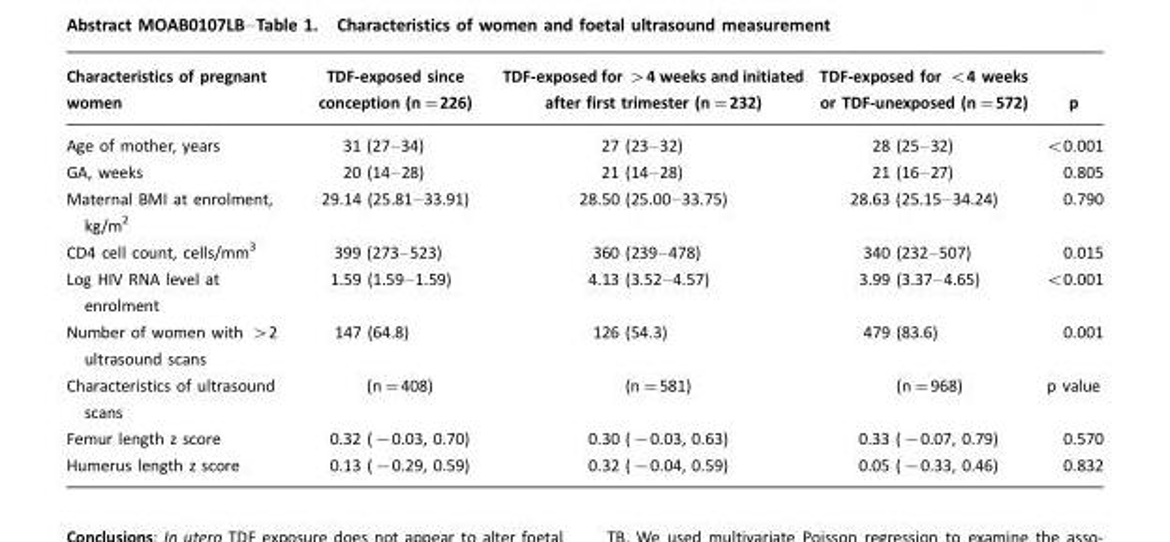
<table><thead><tr><td>Characteristics of pregnant women</td><td>TDF-exposed since conception (n=226)</td><td>TDF-exposed for &gt;4 weeks and initiated after first trimester (n=232)</td><td>TDF-exposed for &lt;4 weeks or TDF-unexposed (n=572)</td><td>p</td></tr></thead><tbody><tr><td>Age of mother, years</td><td>31 (27–34)</td><td>27 (23–32)</td><td>28 (25–32)</td><td>&lt;0.001</td></tr><tr><td>GA, weeks</td><td>20 (14–28)</td><td>21 (14–28)</td><td>21 (16–27)</td><td>0.805</td></tr><tr><td>Maternal BMI at enrolment, kg/m2</td><td>29.14 (25.81–33.91)</td><td>28.50 (25.00–33.75)</td><td>28.63 (25.15–34.24)</td><td>0.790</td></tr><tr><td>CD4 cell count, cells/mm3</td><td>399 (273–523)</td><td>360 (239–478)</td><td>340 (232–507)</td><td>0.015</td></tr><tr><td>Log HIV RNA level at enrolment</td><td>1.59 (1.59–1.59)</td><td>4.13 (3.52–4.57)</td><td>3.99 (3.37–4.65)</td><td>&lt;0.001</td></tr><tr><td>Number of women with &gt;2 ultrasound scans</td><td>147 (64.8)</td><td>126 (54.3)</td><td>479 (83.6)</td><td>0.001</td></tr><tr><td>Characteristics of ultrasound scans</td><td>(n=408)</td><td>(n=581)</td><td>(n=968)</td><td>p value</td></tr><tr><td>Femur length z score</td><td>0.32 (−0.03, 0.70)</td><td>0.30 (−0.03, 0.63)</td><td>0.33 (−0.07, 0.79)</td><td>0.570</td></tr><tr><td>Humerus length z score</td><td>0.13 (−0.29, 0.59)</td><td>0.32 (−0.04, 0.59)</td><td>0.05 (−0.33, 0.46)</td><td>0.832</td></tr></tbody></table>